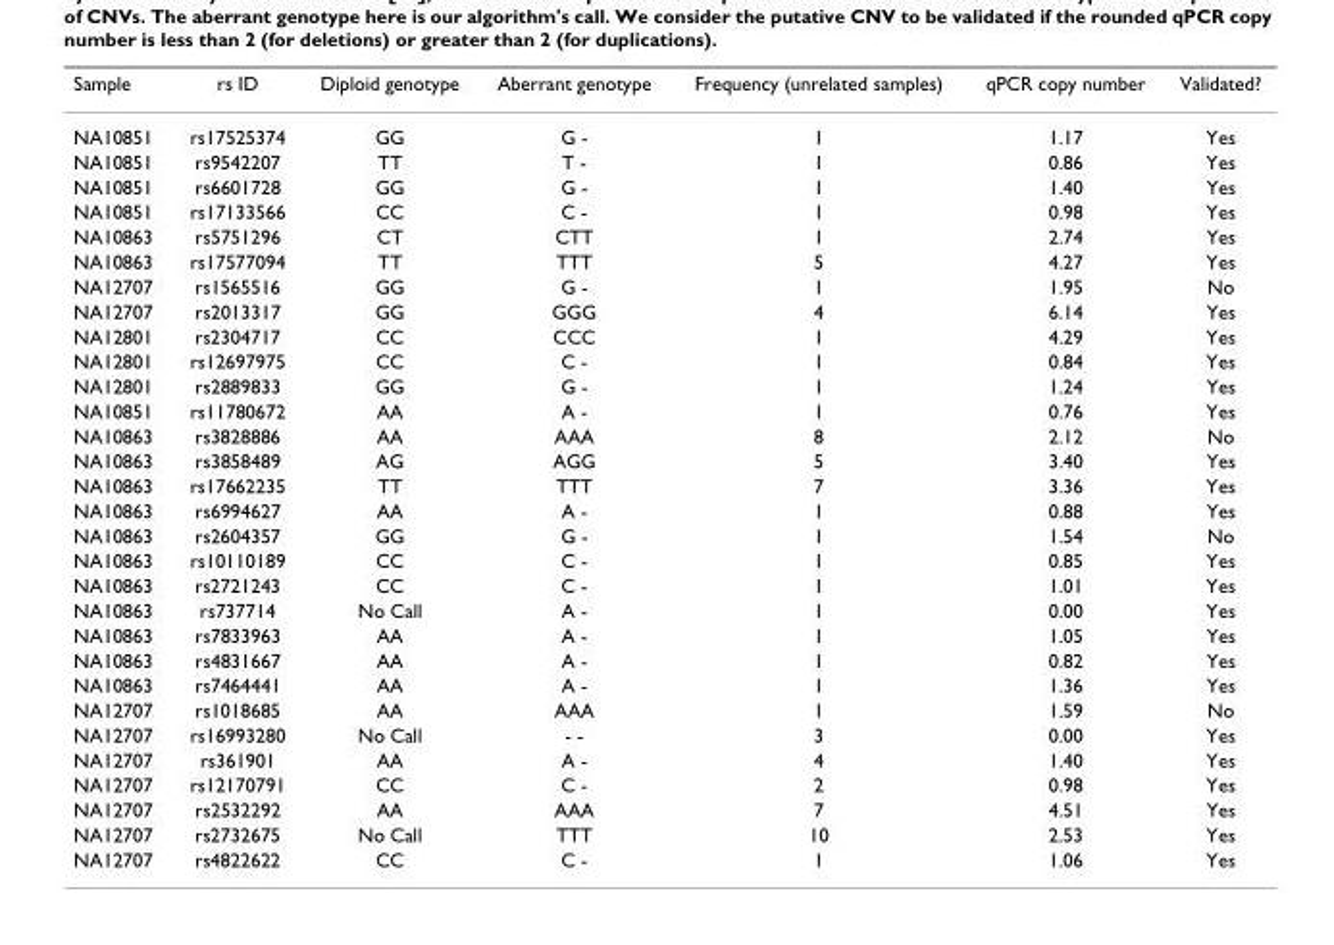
<table><thead><tr><td>Sample</td><td>rs ID</td><td>Diploid genotype</td><td>Aberrant genotype</td><td>Frequency (unrelated samples)</td><td>qPCR copy number</td><td>Validated?</td></tr></thead><tbody><tr><td>NA10851</td><td>rs17525374</td><td>GG</td><td>G -</td><td>1</td><td>1.17</td><td>Yes</td></tr><tr><td>NA10851</td><td>rs9542207</td><td>TT</td><td>T -</td><td>1</td><td>0.86</td><td>Yes</td></tr><tr><td>NA10851</td><td>rs6601728</td><td>GG</td><td>G -</td><td>1</td><td>1.40</td><td>Yes</td></tr><tr><td>NA10851</td><td>rs17133566</td><td>CC</td><td>C -</td><td>1</td><td>0.98</td><td>Yes</td></tr><tr><td>NA10863</td><td>rs5751296</td><td>CT</td><td>CTT</td><td>1</td><td>2.74</td><td>Yes</td></tr><tr><td>NA10863</td><td>rs17577094</td><td>TT</td><td>TTT</td><td>5</td><td>4.27</td><td>Yes</td></tr><tr><td>NA12707</td><td>rs1565516</td><td>GG</td><td>G -</td><td>1</td><td>1.95</td><td>No</td></tr><tr><td>NA12707</td><td>rs2013317</td><td>GG</td><td>GGG</td><td>4</td><td>6.14</td><td>Yes</td></tr><tr><td>NA12801</td><td>rs2304717</td><td>CC</td><td>CCC</td><td>1</td><td>4.29</td><td>Yes</td></tr><tr><td>NA12801</td><td>rs12697975</td><td>CC</td><td>C -</td><td>1</td><td>0.84</td><td>Yes</td></tr><tr><td>NA12801</td><td>rs2889833</td><td>GG</td><td>G -</td><td>1</td><td>1.24</td><td>Yes</td></tr><tr><td>NA10851</td><td>rs11780672</td><td>AA</td><td>A -</td><td>1</td><td>0.76</td><td>Yes</td></tr><tr><td>NA10863</td><td>rs3828886</td><td>AA</td><td>AAA</td><td>8</td><td>2.12</td><td>No</td></tr><tr><td>NA10863</td><td>rs3858489</td><td>AG</td><td>AGG</td><td>5</td><td>3.40</td><td>Yes</td></tr><tr><td>NA10863</td><td>rs17662235</td><td>TT</td><td>TTT</td><td>7</td><td>3.36</td><td>Yes</td></tr><tr><td>NA10863</td><td>rs6994627</td><td>AA</td><td>A -</td><td>1</td><td>0.88</td><td>Yes</td></tr><tr><td>NA10863</td><td>rs2604357</td><td>GG</td><td>G -</td><td>1</td><td>1.54</td><td>No</td></tr><tr><td>NA10863</td><td>rs10110189</td><td>CC</td><td>C -</td><td>1</td><td>0.85</td><td>Yes</td></tr><tr><td>NA10863</td><td>rs2721243</td><td>CC</td><td>C -</td><td>1</td><td>1.01</td><td>Yes</td></tr><tr><td>NA10863</td><td>rs737714</td><td>No Call</td><td>A -</td><td>1</td><td>0.00</td><td>Yes</td></tr><tr><td>NA10863</td><td>rs7833963</td><td>AA</td><td>A -</td><td>1</td><td>1.05</td><td>Yes</td></tr><tr><td>NA10863</td><td>rs4831667</td><td>AA</td><td>A -</td><td>1</td><td>0.82</td><td>Yes</td></tr><tr><td>NA10863</td><td>rs7464441</td><td>AA</td><td>A -</td><td>1</td><td>1.36</td><td>Yes</td></tr><tr><td>NA12707</td><td>rs1018685</td><td>AA</td><td>AAA</td><td>1</td><td>1.59</td><td>No</td></tr><tr><td>NA12707</td><td>rs16993280</td><td>No Call</td><td>- -</td><td>3</td><td>0.00</td><td>Yes</td></tr><tr><td>NA12707</td><td>rs361901</td><td>AA</td><td>A -</td><td>4</td><td>1.40</td><td>Yes</td></tr><tr><td>NA12707</td><td>rs12170791</td><td>CC</td><td>C -</td><td>2</td><td>0.98</td><td>Yes</td></tr><tr><td>NA12707</td><td>rs2532292</td><td>AA</td><td>AAA</td><td>7</td><td>4.51</td><td>Yes</td></tr><tr><td>NA12707</td><td>rs2732675</td><td>No Call</td><td>TTT</td><td>10</td><td>2.53</td><td>Yes</td></tr><tr><td>NA12707</td><td>rs4822622</td><td>CC</td><td>C -</td><td>1</td><td>1.06</td><td>Yes</td></tr></tbody></table>